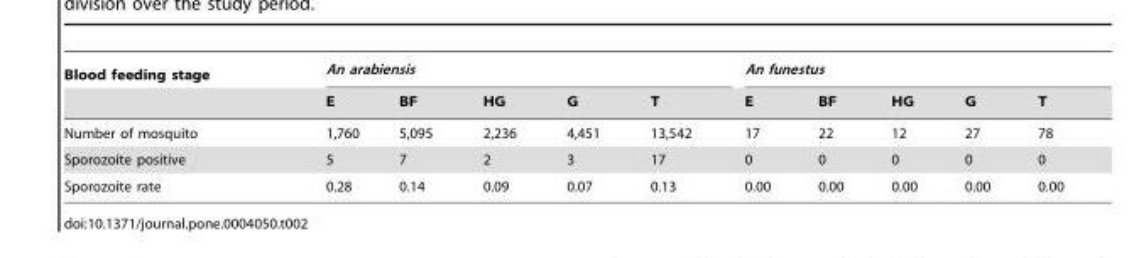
<table><thead><tr><td rowspan="2">Blood feeding stage</td><td colspan="5">An arabiensis</td><td colspan="5">An funestus</td></tr><tr><td>E</td><td>BF</td><td>HG</td><td>G</td><td>T</td><td>E</td><td>BF</td><td>HG</td><td>G</td><td>T</td></tr></thead><tbody><tr><td>Number of mosquito</td><td>1,760</td><td>5,095</td><td>2,236</td><td>4,451</td><td>13,542</td><td>17</td><td>22</td><td>12</td><td>27</td><td>78</td></tr><tr><td>Sporozoite positive</td><td>5</td><td>7</td><td>2</td><td>3</td><td>17</td><td>0</td><td>0</td><td>0</td><td>0</td><td>0</td></tr><tr><td>Sporozoite rate</td><td>0.28</td><td>0.14</td><td>0.09</td><td>0.07</td><td>0.13</td><td>0.00</td><td>0.00</td><td>0.00</td><td>0.00</td><td>0.00</td></tr></tbody></table>